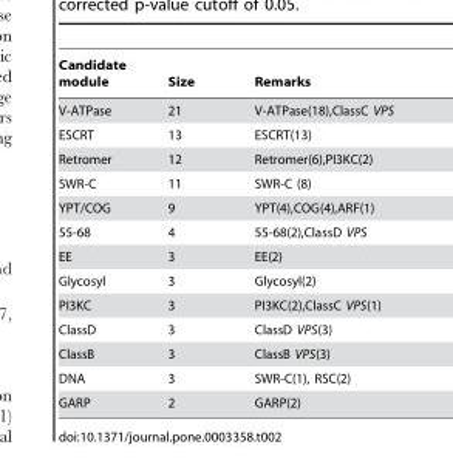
<table><thead><tr><td>Candidate module</td><td>Size</td><td>Remarks</td></tr></thead><tbody><tr><td>V-ATPase</td><td>21</td><td>V-ATPase(18),ClassC VPS</td></tr><tr><td>ESCRT</td><td>13</td><td>ESCRT(13)</td></tr><tr><td>Retromer</td><td>12</td><td>Retromer(6),PI3KC(2)</td></tr><tr><td>SWR-C</td><td>11</td><td>SWR-C (8)</td></tr><tr><td>YPT/COG</td><td>9</td><td>YPT(4),COG(4),ARF(1)</td></tr><tr><td>55-68</td><td>4</td><td>55-68(2),ClassD VPS</td></tr><tr><td>EE</td><td>3</td><td>EE(2)</td></tr><tr><td>Glycosyl</td><td>3</td><td>Glycosyl(2)</td></tr><tr><td>PI3KC</td><td>3</td><td>PI3KC(2),ClassC VPS(1)</td></tr><tr><td>ClassD</td><td>3</td><td>ClassD VPS(3)</td></tr><tr><td>ClassB</td><td>3</td><td>ClassB VPS(3)</td></tr><tr><td>DNA</td><td>3</td><td>SWR-C(1), RSC(2)</td></tr><tr><td>GARP</td><td>2</td><td>GARP(2)</td></tr></tbody></table>